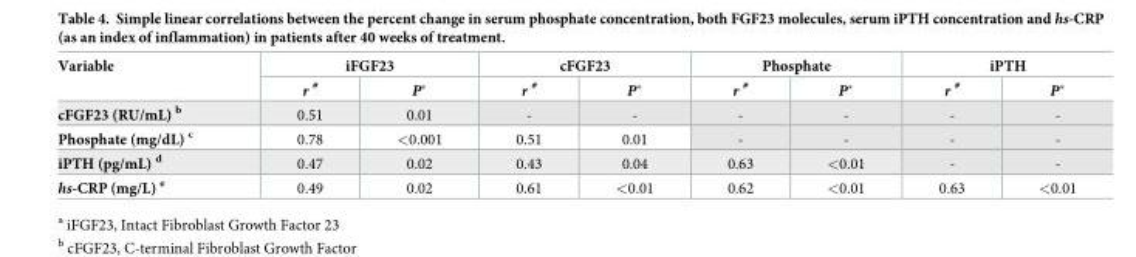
<table><thead><tr><td rowspan="2">Variable</td><td colspan="2">iFGF23</td><td colspan="2">cFGF23</td><td colspan="2">Phosphate</td><td colspan="2">iPTH</td></tr><tr><td>r <sup>#</sup></td><td>P*</td><td>r <sup>#</sup></td><td>P*</td><td>r <sup>#</sup></td><td>P*</td><td>r <sup>#</sup></td><td>P*</td></tr></thead><tbody><tr><td>cFGF23 (RU/mL) <sup>b</sup></td><td>0.51</td><td>0.01</td><td>-</td><td>-</td><td>-</td><td>-</td><td>-</td><td>-</td></tr><tr><td>Phosphate (mg/dL) <sup>c</sup></td><td>0.78</td><td>&lt;0.001</td><td>0.51</td><td>0.01</td><td>-</td><td>-</td><td>-</td><td>-</td></tr><tr><td>iPTH (pg/mL) <sup>d</sup></td><td>0.47</td><td>0.02</td><td>0.43</td><td>0.04</td><td>0.63</td><td>&lt;0.01</td><td>-</td><td>-</td></tr><tr><td>hs-CRP (mg/L) <sup>e</sup></td><td>0.49</td><td>0.02</td><td>0.61</td><td>&lt;0.01</td><td>0.62</td><td>&lt;0.01</td><td>0.63</td><td>&lt;0.01</td></tr></tbody></table>